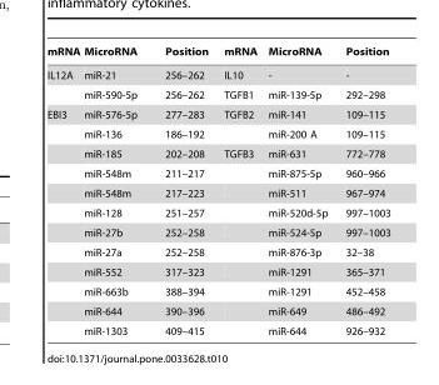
<table><thead><tr><td>mRNA</td><td>MicroRNA</td><td>Position</td><td>mRNA</td><td>MicroRNA</td><td>Position</td></tr></thead><tbody><tr><td rowspan="2">IL12A</td><td>miR-21</td><td>256–262</td><td>IL10</td><td>-</td><td>-</td></tr><tr><td>miR-590-5p</td><td>256–262</td><td>TGFB1</td><td>miR-139-5p</td><td>292–298</td></tr><tr><td rowspan="12">EBI3</td><td>miR-576-5p</td><td>277–283</td><td>TGFB2</td><td>miR-141</td><td>109–115</td></tr><tr><td>miR-136</td><td>186–192</td><td></td><td>miR-200 A</td><td>109–115</td></tr><tr><td>miR-185</td><td>202–208</td><td>TGFB3</td><td>miR-631</td><td>772–778</td></tr><tr><td>miR-548m</td><td>211–217</td><td></td><td>miR-875-5p</td><td>960–966</td></tr><tr><td>miR-548m</td><td>217–223</td><td></td><td>miR-511</td><td>967–974</td></tr><tr><td>miR-128</td><td>251–257</td><td></td><td>miR-520d-5p</td><td>997–1003</td></tr><tr><td>miR-27b</td><td>252–258</td><td></td><td>miR-524-5p</td><td>997–1003</td></tr><tr><td>miR-27a</td><td>252–258</td><td></td><td>miR-876-3p</td><td>32–38</td></tr><tr><td>miR-552</td><td>317–323</td><td></td><td>miR-1291</td><td>365–371</td></tr><tr><td>miR-663b</td><td>388–394</td><td></td><td>miR-1291</td><td>452–458</td></tr><tr><td>miR-644</td><td>390–396</td><td></td><td>miR-649</td><td>486–492</td></tr><tr><td>miR-1303</td><td>409–415</td><td></td><td>miR-644</td><td>926–932</td></tr></tbody></table>